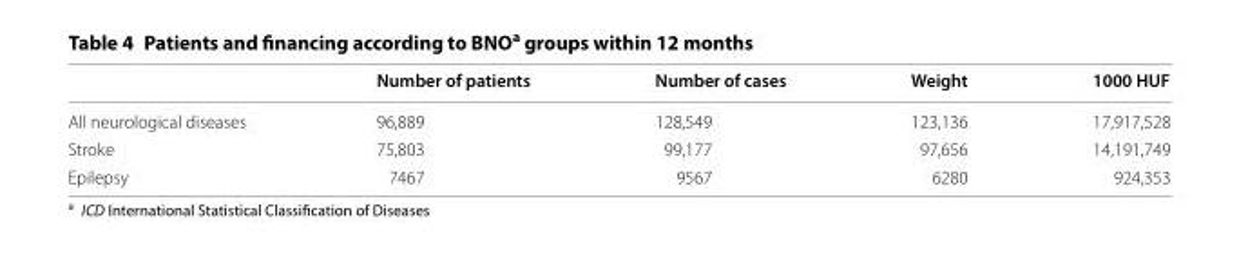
<table><thead><tr><td></td><td>Number of patients</td><td>Number of cases</td><td>Weight</td><td>1000 HUF</td></tr></thead><tbody><tr><td>All neurological diseases</td><td>96,889</td><td>128,549</td><td>123,136</td><td>17,917,528</td></tr><tr><td>Stroke</td><td>75,803</td><td>99,177</td><td>97,656</td><td>14,191,749</td></tr><tr><td>Epilepsy</td><td>7467</td><td>9567</td><td>6280</td><td>924,353</td></tr></tbody></table>